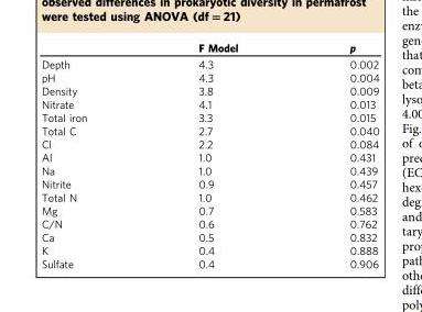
<table><thead><tr><td></td><td>F Model</td><td>p</td></tr></thead><tbody><tr><td>Depth</td><td>4.3</td><td>0.002</td></tr><tr><td>pH</td><td>4.3</td><td>0.004</td></tr><tr><td>Density</td><td>3.8</td><td>0.009</td></tr><tr><td>Nitrate</td><td>4.1</td><td>0.013</td></tr><tr><td>Total iron</td><td>3.3</td><td>0.015</td></tr><tr><td>Total C</td><td>2.7</td><td>0.040</td></tr><tr><td>Cl</td><td>2.2</td><td>0.084</td></tr><tr><td>Al</td><td>1.0</td><td>0.431</td></tr><tr><td>Na</td><td>1.0</td><td>0.439</td></tr><tr><td>Nitrite</td><td>0.9</td><td>0.457</td></tr><tr><td>Total N</td><td>1.0</td><td>0.462</td></tr><tr><td>Mg</td><td>0.7</td><td>0.583</td></tr><tr><td>C/N</td><td>0.6</td><td>0.762</td></tr><tr><td>Ca</td><td>0.5</td><td>0.832</td></tr><tr><td>K</td><td>0.4</td><td>0.888</td></tr><tr><td>Sulfate</td><td>0.4</td><td>0.906</td></tr></tbody></table>